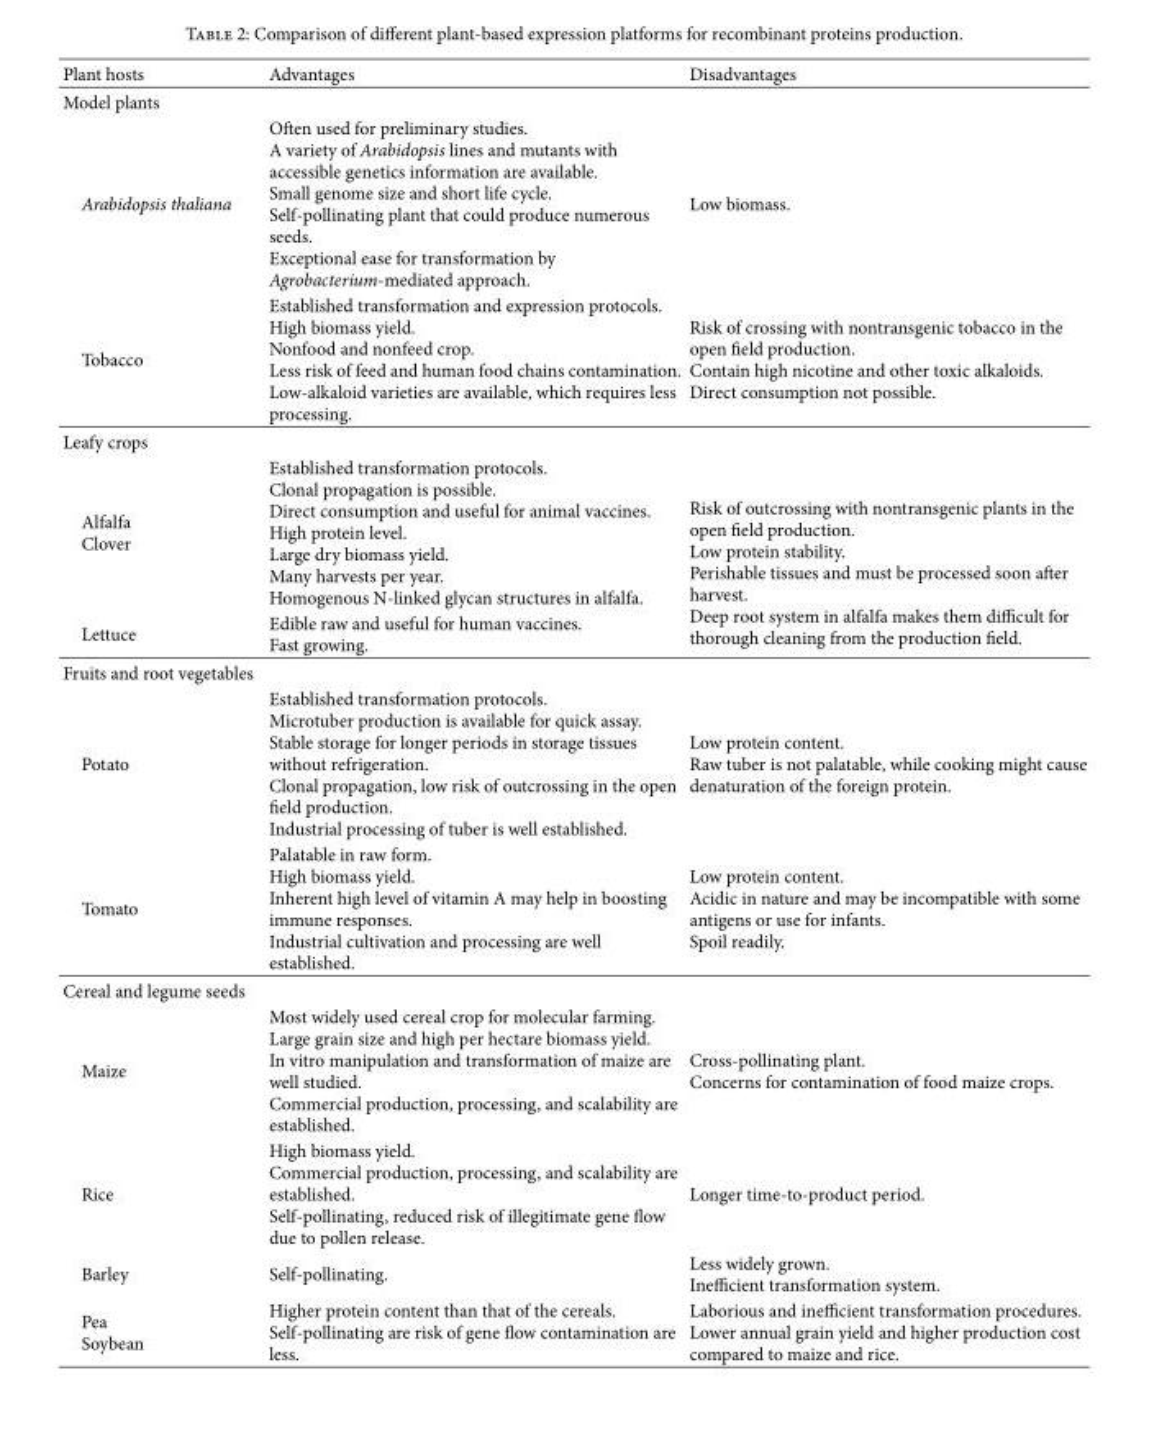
<table><thead><tr><td>Plant hosts</td><td>Advantages</td><td>Disadvantages</td></tr></thead><tbody><tr><td colspan="3">Model plants</td></tr><tr><td>Arabidopsis thaliana</td><td>Often used for preliminary studies. A variety of Arabidopsis lines and mutants with accessible genetics information are available. Small genome size and short life cycle. Self-pollinating plant that could produce numerous seeds. Exceptional ease for transformation by Agrobacterium-mediated approach.</td><td>Low biomass.</td></tr><tr><td>Tobacco</td><td>Established transformation and expression protocols. High biomass yield. Nonfood and nonfeed crop. Less risk of feed and human food chains contamination. Low-alkaloid varieties are available, which requires less processing.</td><td>Risk of crossing with nontransgenic tobacco in the open field production. Contain high nicotine and other toxic alkaloids. Direct consumption not possible.</td></tr><tr><td colspan="3">Leafy crops</td></tr><tr><td>Alfalfa Clover</td><td>Established transformation protocols. Clonal propagation is possible. Direct consumption and useful for animal vaccines. High protein level. Large dry biomass yield. Many harvests per year. Homogenous N-linked glycan structures in alfalfa.</td><td rowspan="2">Risk of outcrossing with nontransgenic plants in the open field production. Low protein stability. Perishable tissues and must be processed soon after harvest. Deep root system in alfalfa makes them difficult for thorough cleaning from the production field.</td></tr><tr><td>Lettuce</td><td>Edible raw and useful for human vaccines. Fast growing.</td></tr><tr><td colspan="3">Fruits and root vegetables</td></tr><tr><td>Potato</td><td>Established transformation protocols. Microtuber production is available for quick assay. Stable storage for longer periods in storage tissues without refrigeration. Clonal propagation, low risk of outcrossing in the open field production. Industrial processing of tuber is well established.</td><td>Low protein content. Raw tuber is not palatable, while cooking might cause denaturation of the foreign protein.</td></tr><tr><td>Tomato</td><td>Palatable in raw form. High biomass yield. Inherent high level of vitamin A may help in boosting immune responses. Industrial cultivation and processing are well established.</td><td>Low protein content. Acidic in nature and may be incompatible with some antigens or use for infants. Spoil readily.</td></tr><tr><td colspan="3">Cereal and legume seeds</td></tr><tr><td>Maize</td><td>Most widely used cereal crop for molecular farming. Large grain size and high per hectare biomass yield. In vitro manipulation and transformation of maize are well studied. Commercial production, processing, and scalability are established.</td><td>Cross-pollinating plant. Concerns for contamination of food maize crops.</td></tr><tr><td>Rice</td><td>High biomass yield. Commercial production, processing, and scalability are established. Self-pollinating, reduced risk of illegitimate gene flow due to pollen release.</td><td>Longer time-to-product period.</td></tr><tr><td>Barley</td><td>Self-pollinating.</td><td>Less widely grown. Inefficient transformation system.</td></tr><tr><td>Pea Soybean</td><td>Higher protein content than that of the cereals. Self-pollinating are risk of gene flow contamination are less.</td><td>Laborious and inefficient transformation procedures. Lower annual grain yield and higher production cost compared to maize and rice.</td></tr></tbody></table>